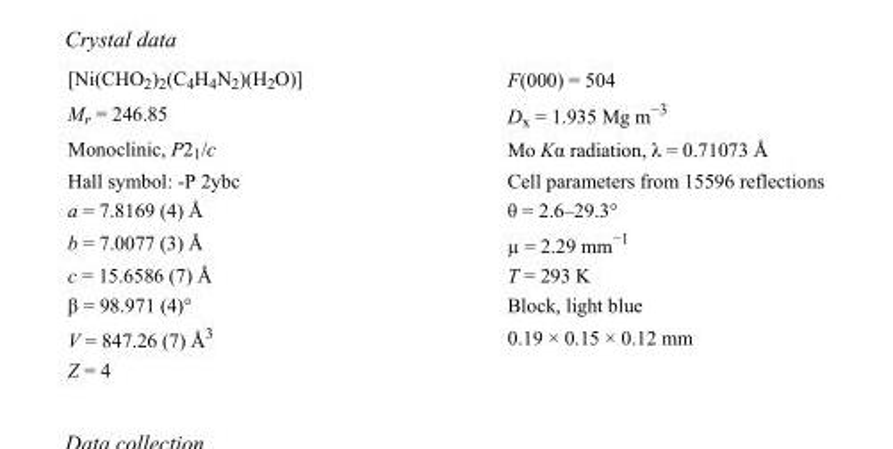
<table><tbody><tr><td>[Ni(CHO<sub>2</sub>)<sub>2</sub>(C<sub>4</sub>H<sub>4</sub>N<sub>2</sub>)(H<sub>2</sub>O)]</td><td>F(000) = 504</td></tr><tr><td>M<sub>r</sub> = 246.85</td><td>D<sub>x</sub> = 1.935 Mg m<sup>−3</sup></td></tr><tr><td>Monoclinic, P2<sub>1</sub>/c</td><td>Mo Kα radiation, λ = 0.71073 Å</td></tr><tr><td>Hall symbol: -P 2ybc</td><td>Cell parameters from 15596 reflections</td></tr><tr><td>a = 7.8169 (4) Å</td><td>θ = 2.6–29.3°</td></tr><tr><td>b = 7.0077 (3) Å</td><td>µ = 2.29 mm<sup>−1</sup></td></tr><tr><td>c = 15.6586 (7) Å</td><td>T = 293 K</td></tr><tr><td>β = 98.971 (4)°</td><td>Block, light blue</td></tr><tr><td>V = 847.26 (7) Å<sup>3</sup></td><td>0.19 × 0.15 × 0.12 mm</td></tr><tr><td>Z = 4</td><td></td></tr></tbody></table>